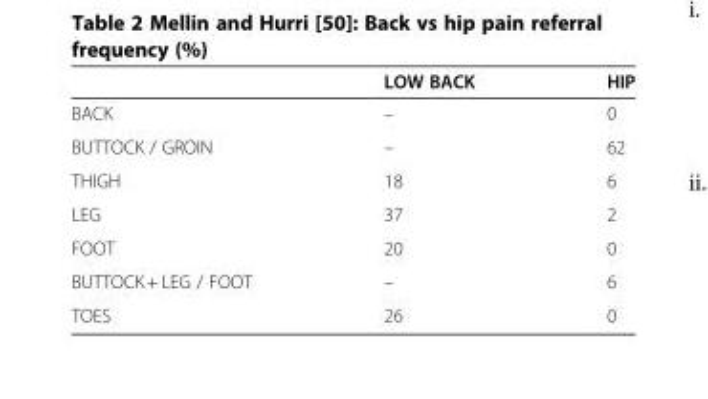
<table><thead><tr><td></td><td>LOW BACK</td><td>HIP</td></tr></thead><tbody><tr><td>BACK</td><td>–</td><td>0</td></tr><tr><td>BUTTOCK / GROIN</td><td>–</td><td>62</td></tr><tr><td>THIGH</td><td>18</td><td>6</td></tr><tr><td>LEG</td><td>37</td><td>2</td></tr><tr><td>FOOT</td><td>20</td><td>0</td></tr><tr><td>BUTTOCK + LEG / FOOT</td><td>–</td><td>6</td></tr><tr><td>TOES</td><td>26</td><td>0</td></tr></tbody></table>